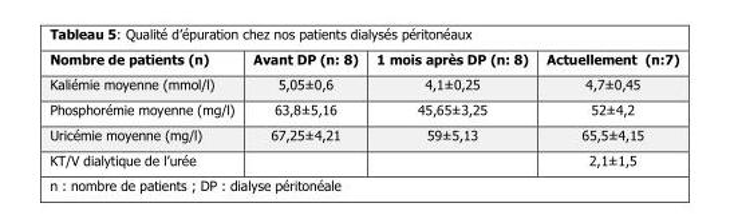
<table><thead><tr><td>Nombre de patients (n)</td><td>Avant DP (n: 8)</td><td>1 mois après DP (n: 8)</td><td>Actuellement (n:7)</td></tr></thead><tbody><tr><td>Kaliémie moyenne (mmol/l)</td><td>5,05±0,6</td><td>4,1±0,25</td><td>4,7±0,45</td></tr><tr><td>Phosphorémie moyenne (mg/l)</td><td>63,8±5,16</td><td>45,65±3,25</td><td>52±4,2</td></tr><tr><td>Uricémie moyenne (mg/l)</td><td>67,25±4,21</td><td>59±5,13</td><td>65,5±4,15</td></tr><tr><td>KT/V dialytique de l’urée</td><td></td><td></td><td>2,1±1,5</td></tr></tbody></table>